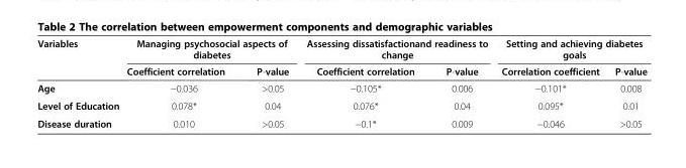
<table><thead><tr><td rowspan="2">Variables</td><td colspan="2">Managing psychosocial aspects of diabetes</td><td colspan="2">Assessing dissatisfactionand readiness to change</td><td colspan="2">Setting and achieving diabetes goals</td></tr><tr><td>Coefficient correlation</td><td>P-value</td><td>Coefficient correlation</td><td>P-value</td><td>Correlation coefficient</td><td>P-value</td></tr></thead><tbody><tr><td>Age</td><td>−0.036</td><td>&gt;0.05</td><td>−0.105*</td><td>0.006</td><td>−0.101*</td><td>0.008</td></tr><tr><td>Level of Education</td><td>0.078*</td><td>0.04</td><td>0.076*</td><td>0.04</td><td>0.095*</td><td>0.01</td></tr><tr><td>Disease duration</td><td>0.010</td><td>&gt;0.05</td><td>−0.1*</td><td>0.009</td><td>−0.046</td><td>&gt;0.05</td></tr></tbody></table>